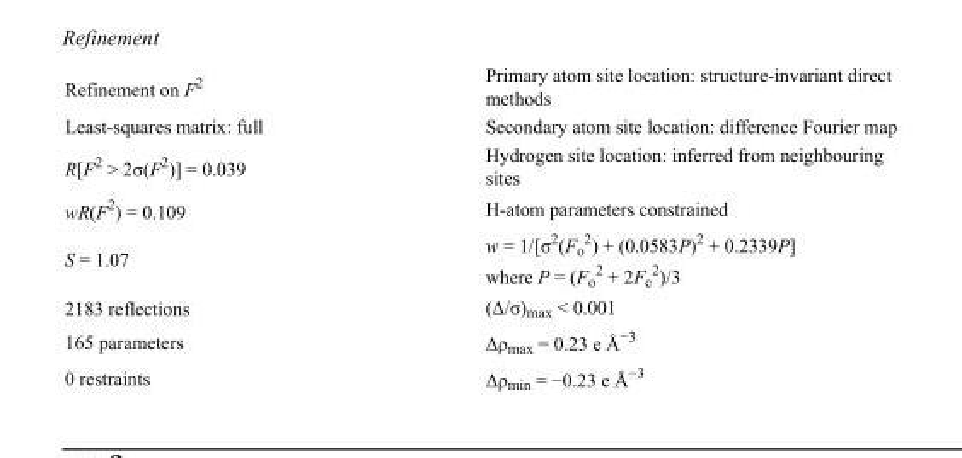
<table><tbody><tr><td>Refinement on F<sup>2</sup></td><td>Primary atom site location: structure-invariant direct methods</td></tr><tr><td>Least-squares matrix: full</td><td>Secondary atom site location: difference Fourier map</td></tr><tr><td>R[F<sup>2</sup> &gt; 2σ(F<sup>2</sup>)] = 0.039</td><td>Hydrogen site location: inferred from neighbouring sites</td></tr><tr><td>wR(F<sup>2</sup>) = 0.109</td><td>H-atom parameters constrained</td></tr><tr><td>S = 1.07</td><td>w = 1/[σ<sup>2</sup>(F<sub>o</sub> <sup>2</sup>) + (0.0583P)<sup>2</sup> + 0.2339P] where P = (F<sub>o</sub> <sup>2</sup> + 2F<sub>c</sub> <sup>2</sup>)/3</td></tr><tr><td>2183 reflections</td><td>(Δ/σ)<sub>max</sub> &lt; 0.001</td></tr><tr><td>165 parameters</td><td>Δρ<sub>max</sub> = 0.23 e Å<sup>−3</sup></td></tr><tr><td>0 restraints</td><td>Δρ<sub>min</sub> = −0.23 e Å<sup>−3</sup></td></tr></tbody></table>